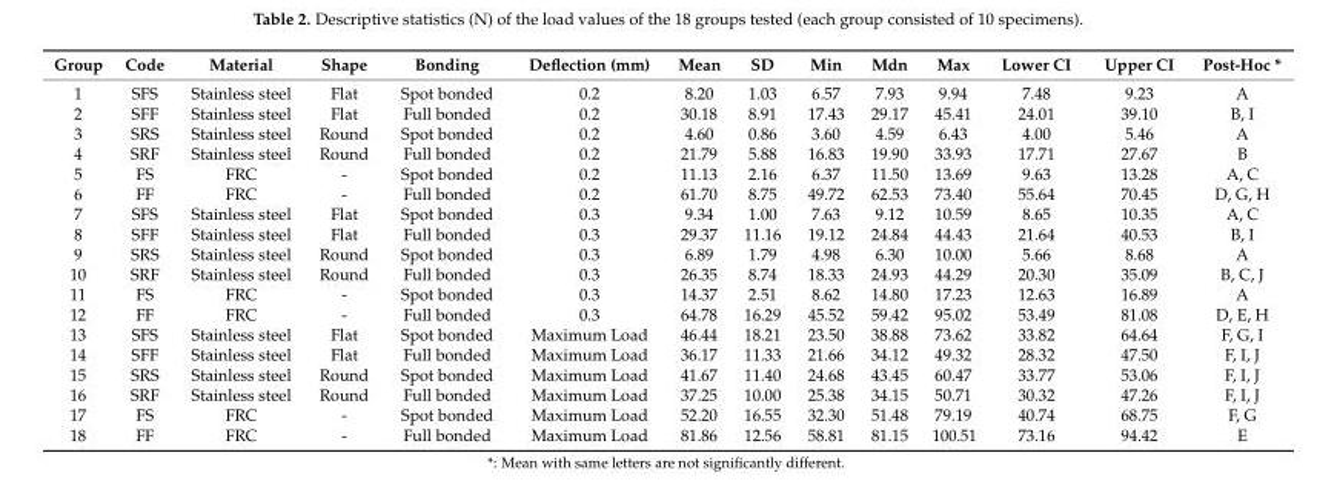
<table><thead><tr><td>Group</td><td>Code</td><td>Material</td><td>Shape</td><td>Bonding</td><td>Deflection (mm)</td><td>Mean</td><td>SD</td><td>Min</td><td>Mdn</td><td>Max</td><td>Lower CI</td><td>Upper CI</td><td>Post-Hoc *</td></tr></thead><tbody><tr><td>1</td><td>SFS</td><td>Stainless steel</td><td>Flat</td><td>Spot bonded</td><td>0.2</td><td>8.20</td><td>1.03</td><td>6.57</td><td>7.93</td><td>9.94</td><td>7.48</td><td>9.23</td><td>A</td></tr><tr><td>2</td><td>SFF</td><td>Stainless steel</td><td>Flat</td><td>Full bonded</td><td>0.2</td><td>30.18</td><td>8.91</td><td>17.43</td><td>29.17</td><td>45.41</td><td>24.01</td><td>39.10</td><td>B, I</td></tr><tr><td>3</td><td>SRS</td><td>Stainless steel</td><td>Round</td><td>Spot bonded</td><td>0.2</td><td>4.60</td><td>0.86</td><td>3.60</td><td>4.59</td><td>6.43</td><td>4.00</td><td>5.46</td><td>A</td></tr><tr><td>4</td><td>SRF</td><td>Stainless steel</td><td>Round</td><td>Full bonded</td><td>0.2</td><td>21.79</td><td>5.88</td><td>16.83</td><td>19.90</td><td>33.93</td><td>17.71</td><td>27.67</td><td>B</td></tr><tr><td>5</td><td>FS</td><td>FRC</td><td>-</td><td>Spot bonded</td><td>0.2</td><td>11.13</td><td>2.16</td><td>6.37</td><td>11.50</td><td>13.69</td><td>9.63</td><td>13.28</td><td>A, C</td></tr><tr><td>6</td><td>FF</td><td>FRC</td><td>-</td><td>Full bonded</td><td>0.2</td><td>61.70</td><td>8.75</td><td>49.72</td><td>62.53</td><td>73.40</td><td>55.64</td><td>70.45</td><td>D, G, H</td></tr><tr><td>7</td><td>SFS</td><td>Stainless steel</td><td>Flat</td><td>Spot bonded</td><td>0.3</td><td>9.34</td><td>1.00</td><td>7.63</td><td>9.12</td><td>10.59</td><td>8.65</td><td>10.35</td><td>A, C</td></tr><tr><td>8</td><td>SFF</td><td>Stainless steel</td><td>Flat</td><td>Full bonded</td><td>0.3</td><td>29.37</td><td>11.16</td><td>19.12</td><td>24.84</td><td>44.43</td><td>21.64</td><td>40.53</td><td>B, I</td></tr><tr><td>9</td><td>SRS</td><td>Stainless steel</td><td>Round</td><td>Spot bonded</td><td>0.3</td><td>6.89</td><td>1.79</td><td>4.98</td><td>6.30</td><td>10.00</td><td>5.66</td><td>8.68</td><td>A</td></tr><tr><td>10</td><td>SRF</td><td>Stainless steel</td><td>Round</td><td>Full bonded</td><td>0.3</td><td>26.35</td><td>8.74</td><td>18.33</td><td>24.93</td><td>44.29</td><td>20.30</td><td>35.09</td><td>B, C, J</td></tr><tr><td>11</td><td>FS</td><td>FRC</td><td>-</td><td>Spot bonded</td><td>0.3</td><td>14.37</td><td>2.51</td><td>8.62</td><td>14.80</td><td>17.23</td><td>12.63</td><td>16.89</td><td>A</td></tr><tr><td>12</td><td>FF</td><td>FRC</td><td>-</td><td>Full bonded</td><td>0.3</td><td>64.78</td><td>16.29</td><td>45.52</td><td>59.42</td><td>95.02</td><td>53.49</td><td>81.08</td><td>D, E, H</td></tr><tr><td>13</td><td>SFS</td><td>Stainless steel</td><td>Flat</td><td>Spot bonded</td><td>Maximum Load</td><td>46.44</td><td>18.21</td><td>23.50</td><td>38.88</td><td>73.62</td><td>33.82</td><td>64.64</td><td>F, G, I</td></tr><tr><td>14</td><td>SFF</td><td>Stainless steel</td><td>Flat</td><td>Full bonded</td><td>Maximum Load</td><td>36.17</td><td>11.33</td><td>21.66</td><td>34.12</td><td>49.32</td><td>28.32</td><td>47.50</td><td>F, I, J</td></tr><tr><td>15</td><td>SRS</td><td>Stainless steel</td><td>Round</td><td>Spot bonded</td><td>Maximum Load</td><td>41.67</td><td>11.40</td><td>24.68</td><td>43.45</td><td>60.47</td><td>33.77</td><td>53.06</td><td>F, I, J</td></tr><tr><td>16</td><td>SRF</td><td>Stainless steel</td><td>Round</td><td>Full bonded</td><td>Maximum Load</td><td>37.25</td><td>10.00</td><td>25.38</td><td>34.15</td><td>50.71</td><td>30.32</td><td>47.26</td><td>F, I, J</td></tr><tr><td>17</td><td>FS</td><td>FRC</td><td>-</td><td>Spot bonded</td><td>Maximum Load</td><td>52.20</td><td>16.55</td><td>32.30</td><td>51.48</td><td>79.19</td><td>40.74</td><td>68.75</td><td>F, G</td></tr><tr><td>18</td><td>FF</td><td>FRC</td><td>-</td><td>Full bonded</td><td>Maximum Load</td><td>81.86</td><td>12.56</td><td>58.81</td><td>81.15</td><td>100.51</td><td>73.16</td><td>94.42</td><td>E</td></tr></tbody></table>